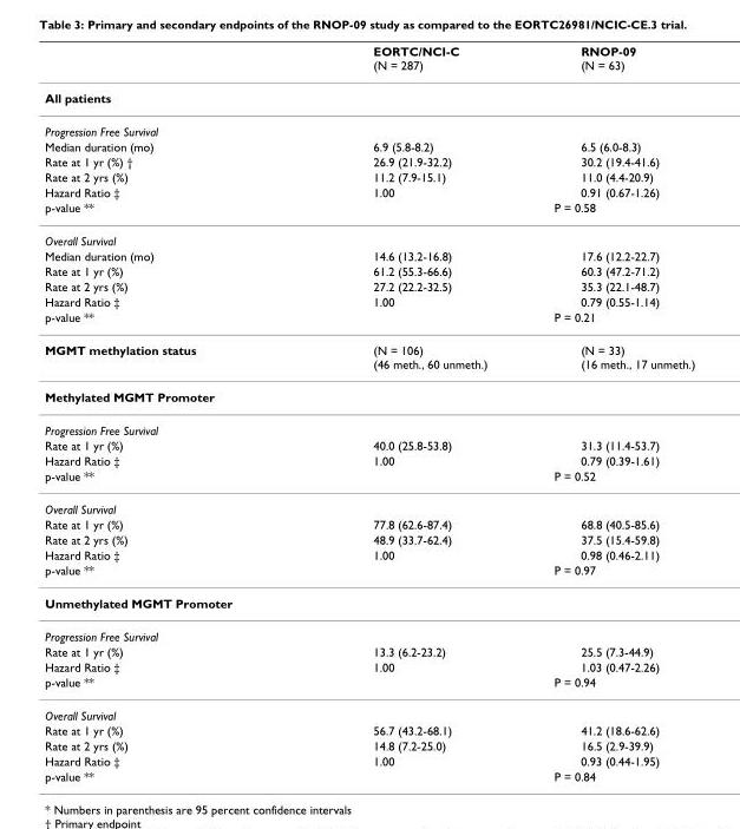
<table><thead><tr><td></td><td>EORTC/NCI-C (N = 287)</td><td>RNOP-09 (N = 63)</td></tr></thead><tbody><tr><td colspan="3">All patients</td></tr><tr><td colspan="3">Progression Free Survival</td></tr><tr><td>Median duration (mo)</td><td>6.9 (5.8-8.2)</td><td>6.5 (6.0-8.3)</td></tr><tr><td>Rate at 1 yr (%) †</td><td>26.9 (21.9-32.2)</td><td>30.2 (19.4-41.6)</td></tr><tr><td>Rate at 2 yrs (%)</td><td>11.2 (7.9-15.1)</td><td>11.0 (4.4-20.9)</td></tr><tr><td>Hazard Ratio ‡</td><td>1.00</td><td>0.91 (0.67-1.26)</td></tr><tr><td>p-value **</td><td colspan="2">P = 0.58</td></tr><tr><td colspan="3">Overall Survival</td></tr><tr><td>Median duration (mo)</td><td>14.6 (13.2-16.8)</td><td>17.6 (12.2-22.7)</td></tr><tr><td>Rate at 1 yr (%)</td><td>61.2 (55.3-66.6)</td><td>60.3 (47.2-71.2)</td></tr><tr><td>Rate at 2 yrs (%)</td><td>27.2 (22.2-32.5)</td><td>35.3 (22.1-48.7)</td></tr><tr><td>Hazard Ratio ‡</td><td>1.00</td><td>0.79 (0.55-1.14)</td></tr><tr><td>p-value **</td><td colspan="2">P = 0.21</td></tr><tr><td>MGMT methylation status</td><td>(N = 106) (46 meth., 60 unmeth.)</td><td>(N = 33) (16 meth., 17 unmeth.)</td></tr><tr><td colspan="3">Methylated MGMT Promoter</td></tr><tr><td colspan="3">Progression Free Survival</td></tr><tr><td>Rate at 1 yr (%)</td><td>40.0 (25.8-53.8)</td><td>31.3 (11.4-53.7)</td></tr><tr><td>Hazard Ratio ‡</td><td>1.00</td><td>0.79 (0.39-1.61)</td></tr><tr><td>p-value **</td><td colspan="2">P = 0.52</td></tr><tr><td colspan="3">Overall Survival</td></tr><tr><td>Rate at 1 yr (%)</td><td>77.8 (62.6-87.4)</td><td>68.8 (40.5-85.6)</td></tr><tr><td>Rate at 2 yrs (%)</td><td>48.9 (33.7-62.4)</td><td>37.5 (15.4-59.8)</td></tr><tr><td>Hazard Ratio ‡</td><td>1.00</td><td>0.98 (0.46-2.11)</td></tr><tr><td>p-value **</td><td colspan="2">P = 0.97</td></tr><tr><td colspan="3">Unmethylated MGMT Promoter</td></tr><tr><td colspan="3">Progression Free Survival</td></tr><tr><td>Rate at 1 yr (%)</td><td>13.3 (6.2-23.2)</td><td>25.5 (7.3-44.9)</td></tr><tr><td>Hazard Ratio ‡</td><td>1.00</td><td>1.03 (0.47-2.26)</td></tr><tr><td>p-value **</td><td colspan="2">P = 0.94</td></tr><tr><td colspan="3">Overall Survival</td></tr><tr><td>Rate at 1 yr (%)</td><td>56.7 (43.2-68.1)</td><td>41.2 (18.6-62.6)</td></tr><tr><td>Rate at 2 yrs (%)</td><td>14.8 (7.2-25.0)</td><td>16.5 (2.9-39.9)</td></tr><tr><td>Hazard Ratio ‡</td><td>1.00</td><td>0.93 (0.44-1.95)</td></tr><tr><td>p-value **</td><td colspan="2">P = 0.84</td></tr></tbody></table>